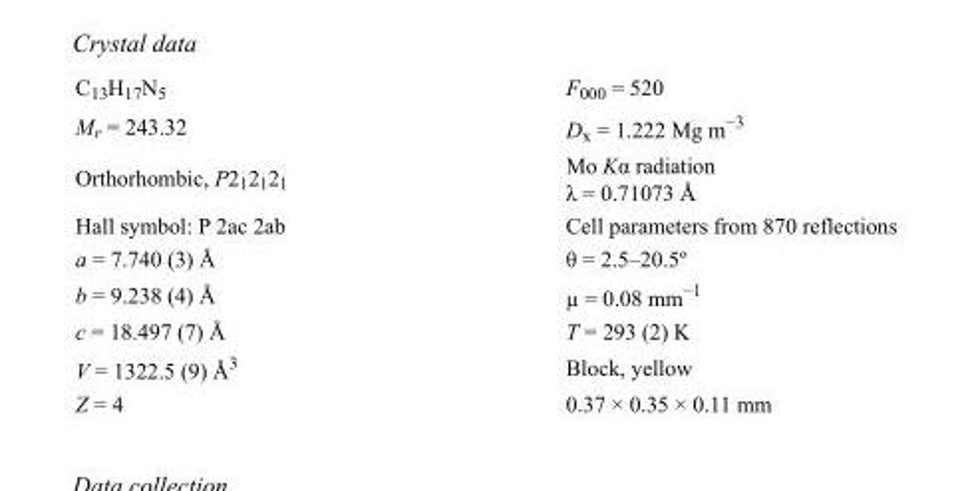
<table><tbody><tr><td>C<sub>13</sub>H<sub>17</sub>N<sub>5</sub></td><td>F<sub>000</sub> = 520</td></tr><tr><td>M<sub>r</sub> = 243.32</td><td>D<sub>x</sub> = 1.222 Mg m<sup>−3</sup></td></tr><tr><td>Orthorhombic, P2<sub>1</sub>2<sub>1</sub>2<sub>1</sub></td><td>Mo Kα radiation λ = 0.71073 Å</td></tr><tr><td>Hall symbol: P 2ac 2ab</td><td>Cell parameters from 870 reflections</td></tr><tr><td>a = 7.740 (3) Å</td><td>θ = 2.5–20.5º</td></tr><tr><td>b = 9.238 (4) Å</td><td>µ = 0.08 mm<sup>−1</sup></td></tr><tr><td>c = 18.497 (7) Å</td><td>T = 293 (2) K</td></tr><tr><td>V = 1322.5 (9) Å<sup>3</sup></td><td>Block, yellow</td></tr><tr><td>Z = 4</td><td>0.37 × 0.35 × 0.11 mm</td></tr></tbody></table>